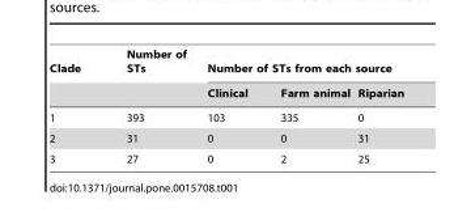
<table><thead><tr><td rowspan="2">Clade</td><td rowspan="2">Number of STs</td><td colspan="3">Number of STs from each source</td></tr><tr><td>Clinical</td><td>Farm animal</td><td>Riparian</td></tr></thead><tbody><tr><td>1</td><td>393</td><td>103</td><td>335</td><td>0</td></tr><tr><td>2</td><td>31</td><td>0</td><td>0</td><td>31</td></tr><tr><td>3</td><td>27</td><td>0</td><td>2</td><td>25</td></tr></tbody></table>